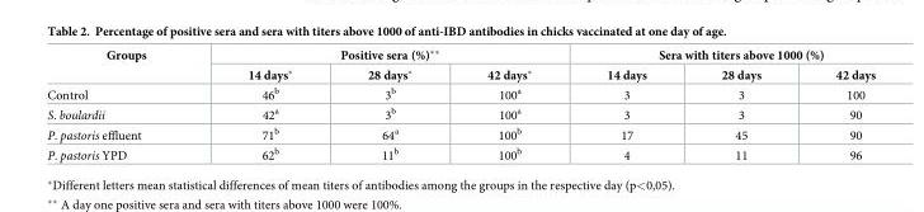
<table><thead><tr><td rowspan="2">Groups</td><td colspan="3">Positive sera (%)**</td><td colspan="3">Sera with titers above 1000 (%)</td></tr><tr><td>14 days*</td><td>28 days*</td><td>42 days*</td><td>14 days</td><td>28 days</td><td>42 days</td></tr></thead><tbody><tr><td>Control</td><td>46<sup>b</sup></td><td>3<sup>b</sup></td><td>100<sup>a</sup></td><td>3</td><td>3</td><td>100</td></tr><tr><td>S. boulardii</td><td>42<sup>a</sup></td><td>3<sup>b</sup></td><td>100<sup>a</sup></td><td>3</td><td>3</td><td>90</td></tr><tr><td>P. pastoris effluent</td><td>71<sup>b</sup></td><td>64<sup>a</sup></td><td>100<sup>b</sup></td><td>17</td><td>45</td><td>90</td></tr><tr><td>P. pastoris YPD</td><td>62<sup>b</sup></td><td>11<sup>b</sup></td><td>100<sup>b</sup></td><td>4</td><td>11</td><td>96</td></tr></tbody></table>